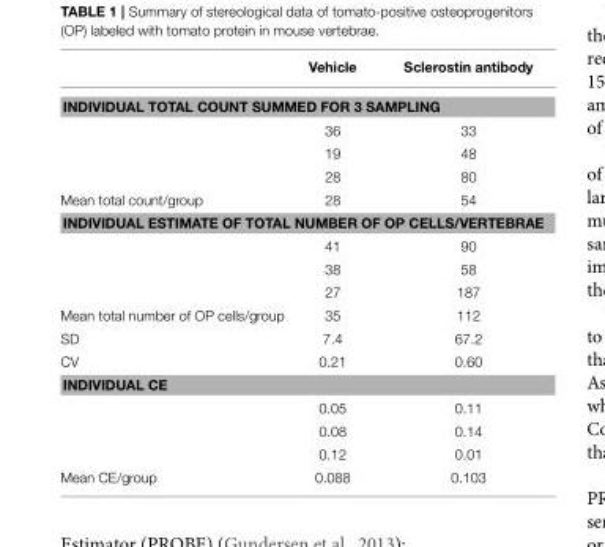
<table><thead><tr><td></td><td>Vehicle</td><td>Sclerostin antibody</td></tr></thead><tbody><tr><td colspan="3">INDIVIDUAL TOTAL COUNT SUMMED FOR 3 SAMPLING</td></tr><tr><td></td><td>36</td><td>33</td></tr><tr><td></td><td>19</td><td>48</td></tr><tr><td></td><td>28</td><td>80</td></tr><tr><td>Mean total count/group</td><td>28</td><td>54</td></tr><tr><td colspan="3">INDIVIDUAL ESTIMATE OF TOTAL NUMBER OF OP CELLS/VERTEBRAE</td></tr><tr><td></td><td>41</td><td>90</td></tr><tr><td></td><td>38</td><td>58</td></tr><tr><td></td><td>27</td><td>187</td></tr><tr><td>Mean total number of OP cells/group</td><td>35</td><td>112</td></tr><tr><td>SD</td><td>7.4</td><td>67.2</td></tr><tr><td>CV</td><td>0.21</td><td>0.60</td></tr><tr><td colspan="3">INDIVIDUAL CE</td></tr><tr><td></td><td>0.05</td><td>0.11</td></tr><tr><td></td><td>0.08</td><td>0.14</td></tr><tr><td></td><td>0.12</td><td>0.01</td></tr><tr><td>Mean CE/group</td><td>0.088</td><td>0.103</td></tr></tbody></table>